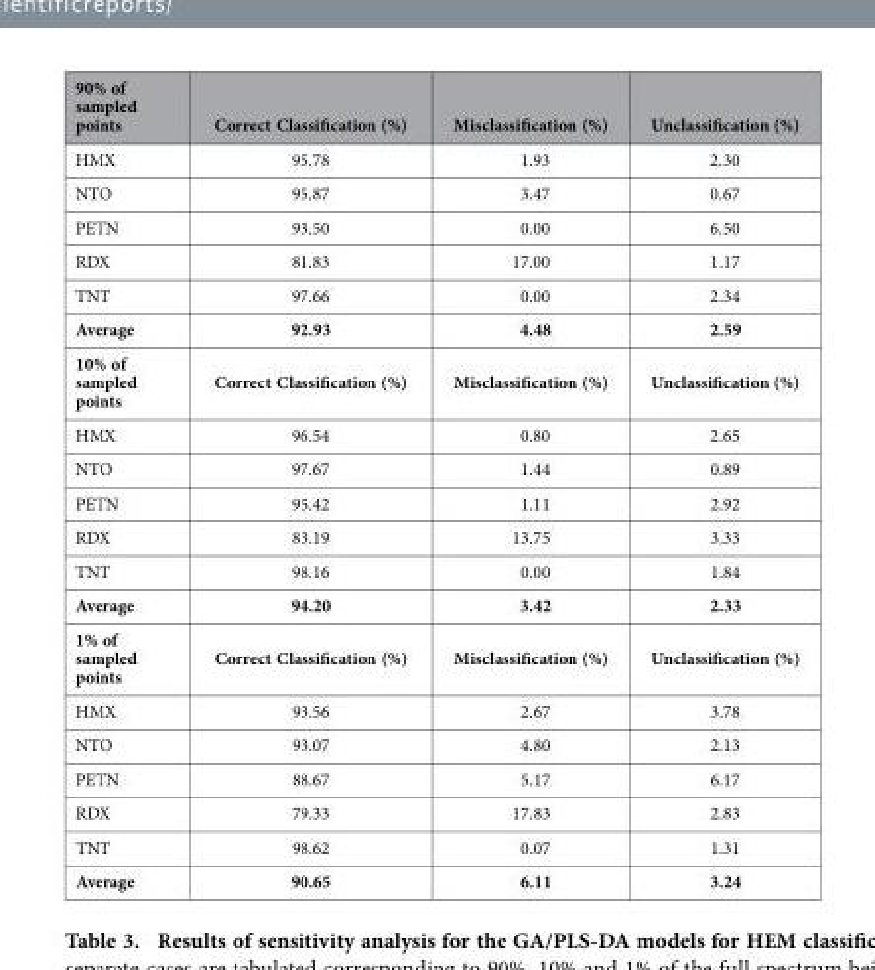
<table><thead><tr><td>90% of sampled points</td><td>Correct Classification (%)</td><td>Misclassification (%)</td><td>Unclassification (%)</td></tr></thead><tbody><tr><td>HMX</td><td>95.78</td><td>1.93</td><td>2.30</td></tr><tr><td>NTO</td><td>95.87</td><td>3.47</td><td>0.67</td></tr><tr><td>PETN</td><td>93.50</td><td>0.00</td><td>6.50</td></tr><tr><td>RDX</td><td>81.83</td><td>17.00</td><td>1.17</td></tr><tr><td>TNT</td><td>97.66</td><td>0.00</td><td>2.34</td></tr><tr><td>Average</td><td>92.93</td><td>4.48</td><td>2.59</td></tr><tr><td>10% of sampled points</td><td>Correct Classification (%)</td><td>Misclassification (%)</td><td>Unclassification (%)</td></tr><tr><td>HMX</td><td>96.54</td><td>0.80</td><td>2.65</td></tr><tr><td>NTO</td><td>97.67</td><td>1.44</td><td>0.89</td></tr><tr><td>PETN</td><td>95.42</td><td>1.11</td><td>2.92</td></tr><tr><td>RDX</td><td>83.19</td><td>13.75</td><td>3.33</td></tr><tr><td>TNT</td><td>98.16</td><td>0.00</td><td>1.84</td></tr><tr><td>Average</td><td>94.20</td><td>3.42</td><td>2.33</td></tr><tr><td>1% of sampled points</td><td>Correct Classification (%)</td><td>Misclassification (%)</td><td>Unclassification (%)</td></tr><tr><td>HMX</td><td>93.56</td><td>2.67</td><td>3.78</td></tr><tr><td>NTO</td><td>93.07</td><td>4.80</td><td>2.13</td></tr><tr><td>PETN</td><td>88.67</td><td>5.17</td><td>6.17</td></tr><tr><td>RDX</td><td>79.33</td><td>17.83</td><td>2.83</td></tr><tr><td>TNT</td><td>98.62</td><td>0.07</td><td>1.31</td></tr><tr><td>Average</td><td>90.65</td><td>6.11</td><td>3.24</td></tr></tbody></table>